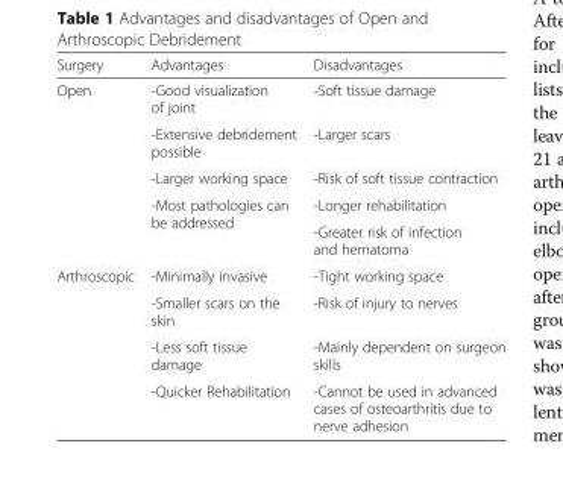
<table><thead><tr><td>Surgery</td><td>Advantages</td><td>Disadvantages</td></tr></thead><tbody><tr><td rowspan="5">Open</td><td>-Good visualization of joint</td><td>-Soft tissue damage</td></tr><tr><td>-Extensive debridement possible</td><td>-Larger scars</td></tr><tr><td>-Larger working space</td><td>-Risk of soft tissue contraction</td></tr><tr><td rowspan="2">-Most pathologies can be addressed</td><td>-Longer rehabilitation</td></tr><tr><td>-Greater risk of infection and hematoma</td></tr><tr><td rowspan="4">Arthroscopic</td><td>-Minimally invasive</td><td>-Tight working space</td></tr><tr><td>-Smaller scars on the skin</td><td>-Risk of injury to nerves</td></tr><tr><td>-Less soft tissue damage</td><td>-Mainly dependent on surgeon skills</td></tr><tr><td>-Quicker Rehabilitation</td><td>-Cannot be used in advanced cases of osteoarthritis due to nerve adhesion</td></tr></tbody></table>